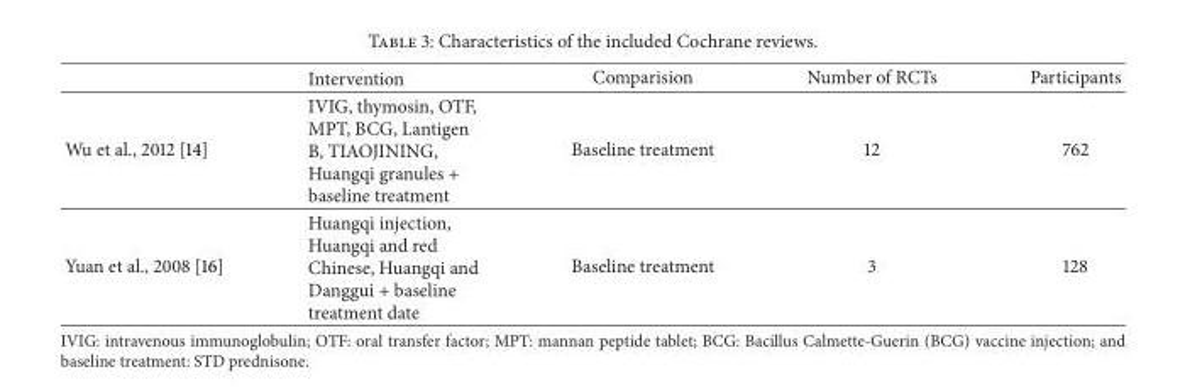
<table><thead><tr><td></td><td>Intervention</td><td>Comparision</td><td>Number of RCTs</td><td>Participants</td></tr></thead><tbody><tr><td>Wu et al., 2012 [14]</td><td>IVIG, thymosin, OTF, MPT, BCG, Lantigen B, TIAOJINING, Huangqi granules + baseline treatment</td><td>Baseline treatment</td><td>12</td><td>762</td></tr><tr><td>Yuan et al., 2008 [16]</td><td>Huangqi injection, Huangqi and red Chinese, Huangqi and Danggui + baseline treatment date</td><td>Baseline treatment</td><td>3</td><td>128</td></tr></tbody></table>